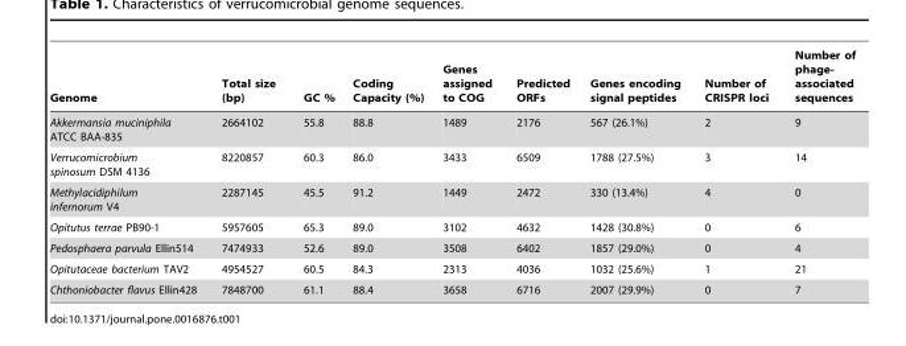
<table><thead><tr><td>Genome</td><td>Total size (bp)</td><td>GC %</td><td>Coding Capacity (%)</td><td>Genes assigned to COG</td><td>Predicted ORFs</td><td>Genes encoding signal peptides</td><td>Number of CRISPR loci</td><td>Number of phage- associated sequences</td></tr></thead><tbody><tr><td>Akkermansia muciniphila ATCC BAA-835</td><td>2664102</td><td>55.8</td><td>88.8</td><td>1489</td><td>2176</td><td>567 (26.1%)</td><td>2</td><td>9</td></tr><tr><td>Verrucomicrobium spinosum DSM 4136</td><td>8220857</td><td>60.3</td><td>86.0</td><td>3433</td><td>6509</td><td>1788 (27.5%)</td><td>3</td><td>14</td></tr><tr><td>Methylacidiphilum infernorum V4</td><td>2287145</td><td>45.5</td><td>91.2</td><td>1449</td><td>2472</td><td>330 (13.4%)</td><td>4</td><td>0</td></tr><tr><td>Opitutus terrae PB90-1</td><td>5957605</td><td>65.3</td><td>89.0</td><td>3102</td><td>4632</td><td>1428 (30.8%)</td><td>0</td><td>6</td></tr><tr><td>Pedosphaera parvula Ellin514</td><td>7474933</td><td>52.6</td><td>89.0</td><td>3508</td><td>6402</td><td>1857 (29.0%)</td><td>0</td><td>4</td></tr><tr><td>Opitutaceae bacterium TAV2</td><td>4954527</td><td>60.5</td><td>84.3</td><td>2313</td><td>4036</td><td>1032 (25.6%)</td><td>1</td><td>21</td></tr><tr><td>Chthoniobacter flavus Ellin428</td><td>7848700</td><td>61.1</td><td>88.4</td><td>3658</td><td>6716</td><td>2007 (29.9%)</td><td>0</td><td>7</td></tr></tbody></table>